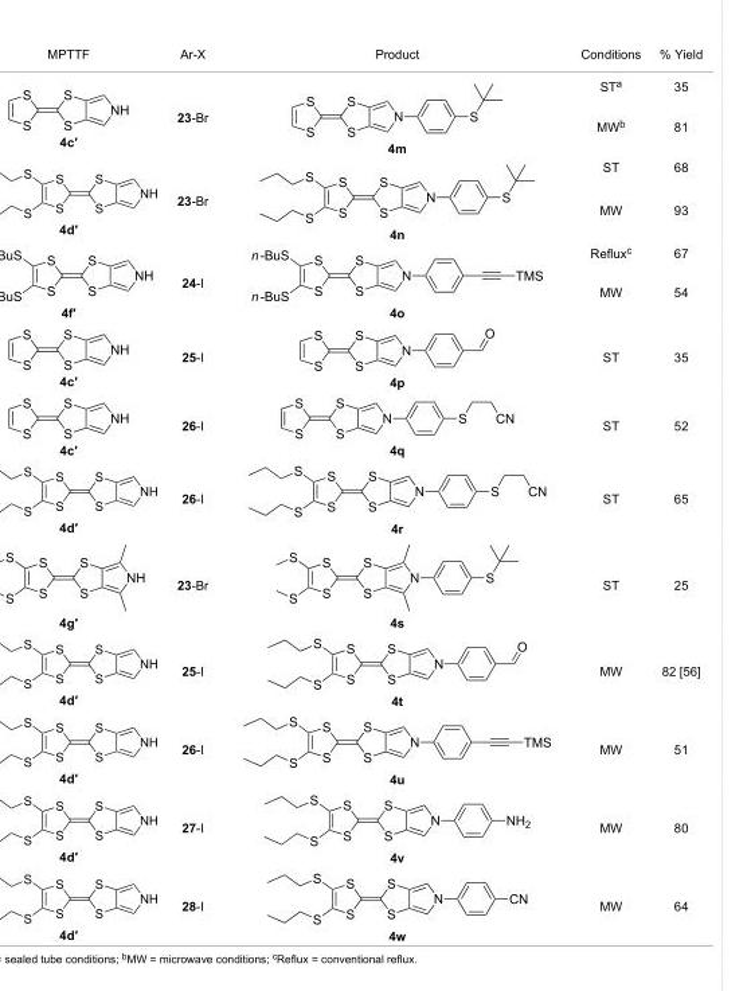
<table><tbody><tr><td>MPTTF</td><td>Ar-X</td><td>Product</td><td>Conditions</td><td>% Yield</td></tr><tr><td rowspan="2">4c′</td><td rowspan="2">23-Br</td><td rowspan="2">4m</td><td>ST<sup>a</sup></td><td>35</td></tr><tr><td>MW<sup>b</sup></td><td>81</td></tr><tr><td rowspan="2">4d′</td><td rowspan="2">23-Br</td><td rowspan="2">4n</td><td>ST</td><td>68</td></tr><tr><td>MW</td><td>93</td></tr><tr><td rowspan="2">4f′</td><td rowspan="2">24-I</td><td rowspan="2">4o</td><td>Reflux<sup>c</sup></td><td>67</td></tr><tr><td>MW</td><td>54</td></tr><tr><td>4c′</td><td>25-I</td><td>4p</td><td>ST</td><td>35</td></tr><tr><td>4c′</td><td>26-I</td><td>4q</td><td>ST</td><td>52</td></tr><tr><td>4d′</td><td>26-I</td><td>4r</td><td>ST</td><td>65</td></tr><tr><td>4g′</td><td>23-Br</td><td>4s</td><td>ST</td><td>25</td></tr><tr><td>4d′</td><td>25-I</td><td>4t</td><td>MW</td><td>82 [56]</td></tr><tr><td>4d′</td><td>26-I</td><td>4u</td><td>MW</td><td>51</td></tr><tr><td>4d′</td><td>27-I</td><td>4v</td><td>MW</td><td>80</td></tr><tr><td>4d′</td><td>28-I</td><td>4w</td><td>MW</td><td>64</td></tr></tbody></table>